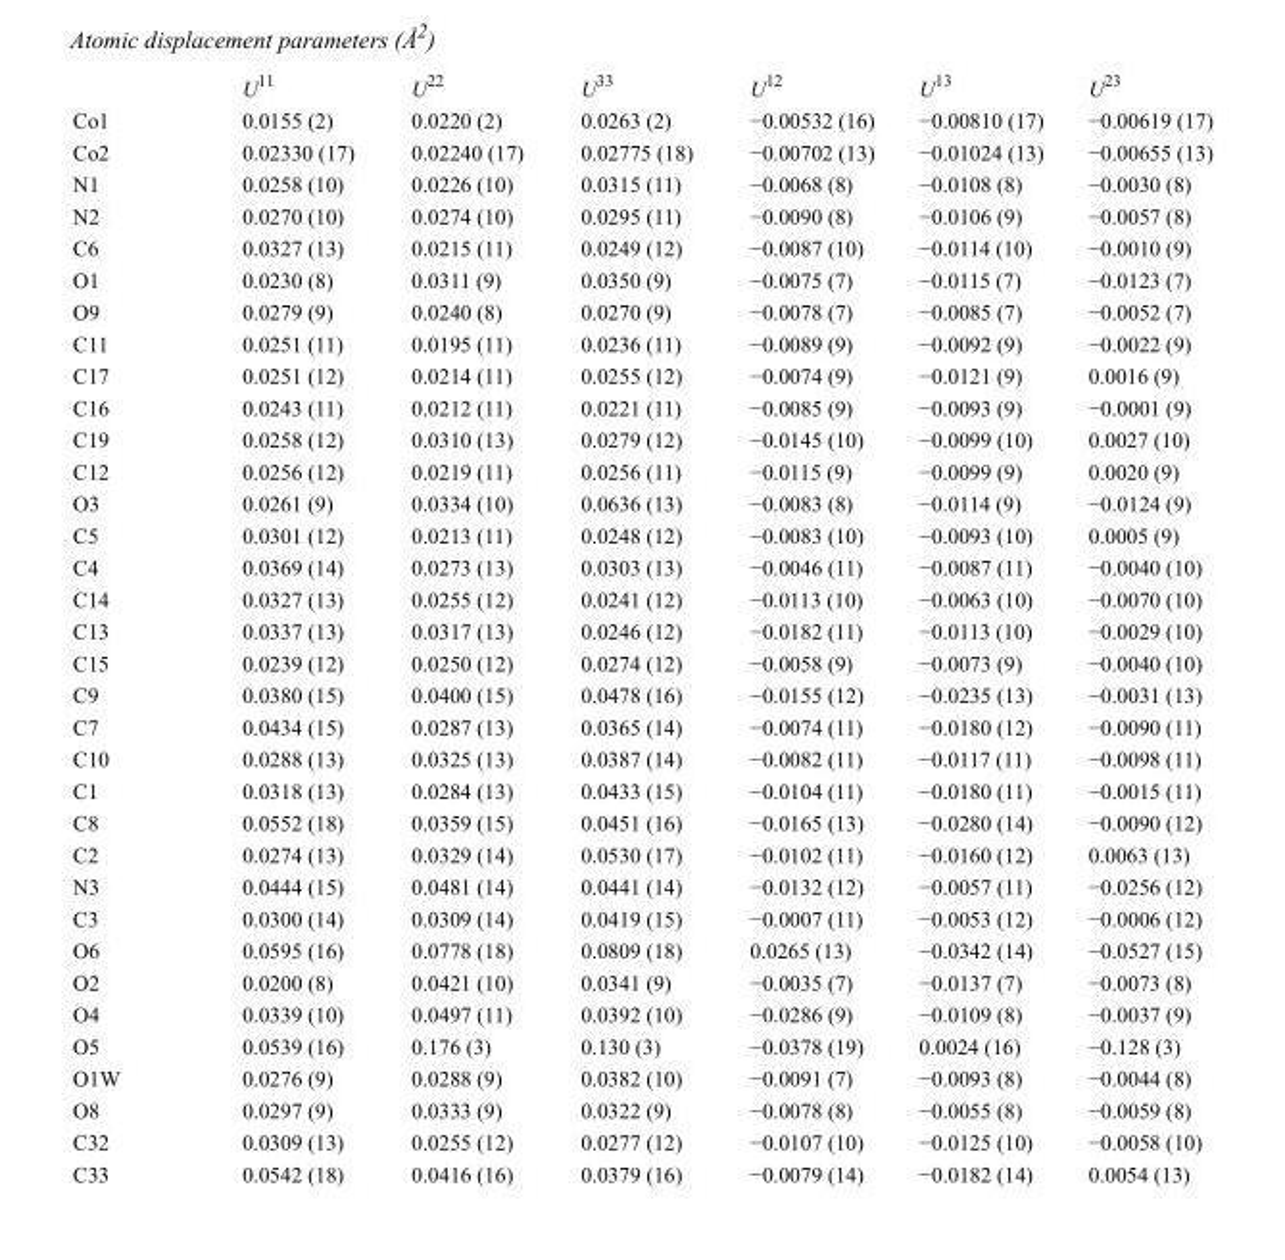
<table><thead><tr><td></td><td>U<sup>11</sup></td><td>U<sup>22</sup></td><td>U<sup>33</sup></td><td>U<sup>12</sup></td><td>U<sup>13</sup></td><td>U<sup>23</sup></td></tr></thead><tbody><tr><td>Co1</td><td>0.0155 (2)</td><td>0.0220 (2)</td><td>0.0263 (2)</td><td>−0.00532 (16)</td><td>−0.00810 (17)</td><td>−0.00619 (17)</td></tr><tr><td>Co2</td><td>0.02330 (17)</td><td>0.02240 (17)</td><td>0.02775 (18)</td><td>−0.00702 (13)</td><td>−0.01024 (13)</td><td>−0.00655 (13)</td></tr><tr><td>N1</td><td>0.0258 (10)</td><td>0.0226 (10)</td><td>0.0315 (11)</td><td>−0.0068 (8)</td><td>−0.0108 (8)</td><td>−0.0030 (8)</td></tr><tr><td>N2</td><td>0.0270 (10)</td><td>0.0274 (10)</td><td>0.0295 (11)</td><td>−0.0090 (8)</td><td>−0.0106 (9)</td><td>−0.0057 (8)</td></tr><tr><td>C6</td><td>0.0327 (13)</td><td>0.0215 (11)</td><td>0.0249 (12)</td><td>−0.0087 (10)</td><td>−0.0114 (10)</td><td>−0.0010 (9)</td></tr><tr><td>O1</td><td>0.0230 (8)</td><td>0.0311 (9)</td><td>0.0350 (9)</td><td>−0.0075 (7)</td><td>−0.0115 (7)</td><td>−0.0123 (7)</td></tr><tr><td>O9</td><td>0.0279 (9)</td><td>0.0240 (8)</td><td>0.0270 (9)</td><td>−0.0078 (7)</td><td>−0.0085 (7)</td><td>−0.0052 (7)</td></tr><tr><td>C11</td><td>0.0251 (11)</td><td>0.0195 (11)</td><td>0.0236 (11)</td><td>−0.0089 (9)</td><td>−0.0092 (9)</td><td>−0.0022 (9)</td></tr><tr><td>C17</td><td>0.0251 (12)</td><td>0.0214 (11)</td><td>0.0255 (12)</td><td>−0.0074 (9)</td><td>−0.0121 (9)</td><td>0.0016 (9)</td></tr><tr><td>C16</td><td>0.0243 (11)</td><td>0.0212 (11)</td><td>0.0221 (11)</td><td>−0.0085 (9)</td><td>−0.0093 (9)</td><td>−0.0001 (9)</td></tr><tr><td>C19</td><td>0.0258 (12)</td><td>0.0310 (13)</td><td>0.0279 (12)</td><td>−0.0145 (10)</td><td>−0.0099 (10)</td><td>0.0027 (10)</td></tr><tr><td>C12</td><td>0.0256 (12)</td><td>0.0219 (11)</td><td>0.0256 (11)</td><td>−0.0115 (9)</td><td>−0.0099 (9)</td><td>0.0020 (9)</td></tr><tr><td>O3</td><td>0.0261 (9)</td><td>0.0334 (10)</td><td>0.0636 (13)</td><td>−0.0083 (8)</td><td>−0.0114 (9)</td><td>−0.0124 (9)</td></tr><tr><td>C5</td><td>0.0301 (12)</td><td>0.0213 (11)</td><td>0.0248 (12)</td><td>−0.0083 (10)</td><td>−0.0093 (10)</td><td>0.0005 (9)</td></tr><tr><td>C4</td><td>0.0369 (14)</td><td>0.0273 (13)</td><td>0.0303 (13)</td><td>−0.0046 (11)</td><td>−0.0087 (11)</td><td>−0.0040 (10)</td></tr><tr><td>C14</td><td>0.0327 (13)</td><td>0.0255 (12)</td><td>0.0241 (12)</td><td>−0.0113 (10)</td><td>−0.0063 (10)</td><td>−0.0070 (10)</td></tr><tr><td>C13</td><td>0.0337 (13)</td><td>0.0317 (13)</td><td>0.0246 (12)</td><td>−0.0182 (11)</td><td>−0.0113 (10)</td><td>−0.0029 (10)</td></tr><tr><td>C15</td><td>0.0239 (12)</td><td>0.0250 (12)</td><td>0.0274 (12)</td><td>−0.0058 (9)</td><td>−0.0073 (9)</td><td>−0.0040 (10)</td></tr><tr><td>C9</td><td>0.0380 (15)</td><td>0.0400 (15)</td><td>0.0478 (16)</td><td>−0.0155 (12)</td><td>−0.0235 (13)</td><td>−0.0031 (13)</td></tr><tr><td>C7</td><td>0.0434 (15)</td><td>0.0287 (13)</td><td>0.0365 (14)</td><td>−0.0074 (11)</td><td>−0.0180 (12)</td><td>−0.0090 (11)</td></tr><tr><td>C10</td><td>0.0288 (13)</td><td>0.0325 (13)</td><td>0.0387 (14)</td><td>−0.0082 (11)</td><td>−0.0117 (11)</td><td>−0.0098 (11)</td></tr><tr><td>C1</td><td>0.0318 (13)</td><td>0.0284 (13)</td><td>0.0433 (15)</td><td>−0.0104 (11)</td><td>−0.0180 (11)</td><td>−0.0015 (11)</td></tr><tr><td>C8</td><td>0.0552 (18)</td><td>0.0359 (15)</td><td>0.0451 (16)</td><td>−0.0165 (13)</td><td>−0.0280 (14)</td><td>−0.0090 (12)</td></tr><tr><td>C2</td><td>0.0274 (13)</td><td>0.0329 (14)</td><td>0.0530 (17)</td><td>−0.0102 (11)</td><td>−0.0160 (12)</td><td>0.0063 (13)</td></tr><tr><td>N3</td><td>0.0444 (15)</td><td>0.0481 (14)</td><td>0.0441 (14)</td><td>−0.0132 (12)</td><td>−0.0057 (11)</td><td>−0.0256 (12)</td></tr><tr><td>C3</td><td>0.0300 (14)</td><td>0.0309 (14)</td><td>0.0419 (15)</td><td>−0.0007 (11)</td><td>−0.0053 (12)</td><td>−0.0006 (12)</td></tr><tr><td>O6</td><td>0.0595 (16)</td><td>0.0778 (18)</td><td>0.0809 (18)</td><td>0.0265 (13)</td><td>−0.0342 (14)</td><td>−0.0527 (15)</td></tr><tr><td>O2</td><td>0.0200 (8)</td><td>0.0421 (10)</td><td>0.0341 (9)</td><td>−0.0035 (7)</td><td>−0.0137 (7)</td><td>−0.0073 (8)</td></tr><tr><td>O4</td><td>0.0339 (10)</td><td>0.0497 (11)</td><td>0.0392 (10)</td><td>−0.0286 (9)</td><td>−0.0109 (8)</td><td>−0.0037 (9)</td></tr><tr><td>O5</td><td>0.0539 (16)</td><td>0.176 (3)</td><td>0.130 (3)</td><td>−0.0378 (19)</td><td>0.0024 (16)</td><td>−0.128 (3)</td></tr><tr><td>O1W</td><td>0.0276 (9)</td><td>0.0288 (9)</td><td>0.0382 (10)</td><td>−0.0091 (7)</td><td>−0.0093 (8)</td><td>−0.0044 (8)</td></tr><tr><td>O8</td><td>0.0297 (9)</td><td>0.0333 (9)</td><td>0.0322 (9)</td><td>−0.0078 (8)</td><td>−0.0055 (8)</td><td>−0.0059 (8)</td></tr><tr><td>C32</td><td>0.0309 (13)</td><td>0.0255 (12)</td><td>0.0277 (12)</td><td>−0.0107 (10)</td><td>−0.0125 (10)</td><td>−0.0058 (10)</td></tr><tr><td>C33</td><td>0.0542 (18)</td><td>0.0416 (16)</td><td>0.0379 (16)</td><td>−0.0079 (14)</td><td>−0.0182 (14)</td><td>0.0054 (13)</td></tr></tbody></table>